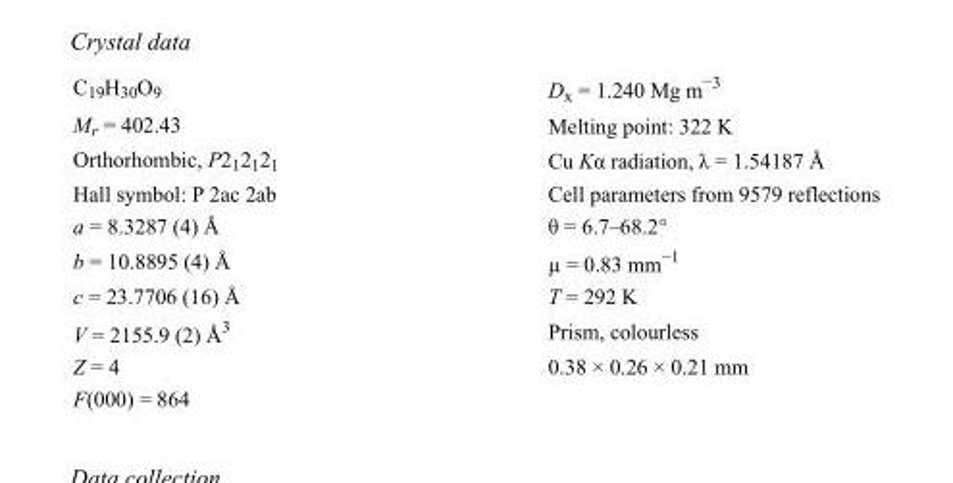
<table><tbody><tr><td>C<sub>19</sub>H<sub>30</sub>O<sub>9</sub></td><td>D<sub>x</sub> = 1.240 Mg m<sup>−3</sup></td></tr><tr><td>M<sub>r</sub> = 402.43</td><td>Melting point: 322 K</td></tr><tr><td>Orthorhombic, P2<sub>1</sub>2<sub>1</sub>2<sub>1</sub></td><td>Cu Kα radiation, λ = 1.54187 Å</td></tr><tr><td>Hall symbol: P 2ac 2ab</td><td>Cell parameters from 9579 reflections</td></tr><tr><td>a = 8.3287 (4) Å</td><td>θ = 6.7–68.2°</td></tr><tr><td>b = 10.8895 (4) Å</td><td>µ = 0.83 mm<sup>−1</sup></td></tr><tr><td>c = 23.7706 (16) Å</td><td>T = 292 K</td></tr><tr><td>V = 2155.9 (2) Å<sup>3</sup></td><td>Prism, colourless</td></tr><tr><td>Z = 4</td><td>0.38 × 0.26 × 0.21 mm</td></tr><tr><td>F(000) = 864</td><td></td></tr></tbody></table>